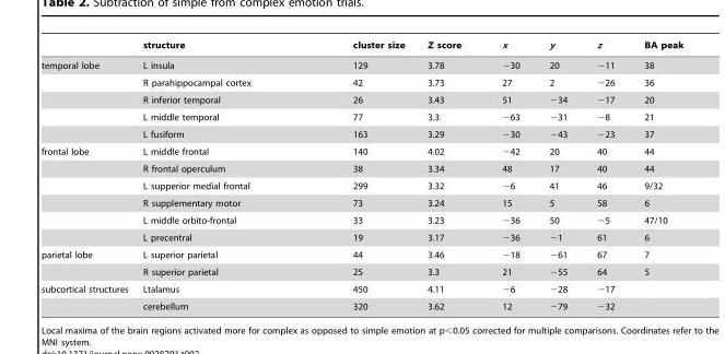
<table><thead><tr><td></td><td>structure</td><td>cluster size</td><td>Z score</td><td>x</td><td>y</td><td>z</td><td>BA peak</td></tr></thead><tbody><tr><td rowspan="5">temporal lobe</td><td>L insula</td><td>129</td><td>3.78</td><td>−30</td><td>20</td><td>−11</td><td>38</td></tr><tr><td>R parahippocampal cortex</td><td>42</td><td>3.73</td><td>27</td><td>2</td><td>−26</td><td>36</td></tr><tr><td>R inferior temporal</td><td>26</td><td>3.43</td><td>51</td><td>−34</td><td>−17</td><td>20</td></tr><tr><td>L middle temporal</td><td>77</td><td>3.3</td><td>−63</td><td>−31</td><td>−8</td><td>21</td></tr><tr><td>L fusiform</td><td>163</td><td>3.29</td><td>−30</td><td>−43</td><td>−23</td><td>37</td></tr><tr><td rowspan="6">frontal lobe</td><td>L middle frontal</td><td>140</td><td>4.02</td><td>−42</td><td>20</td><td>40</td><td>44</td></tr><tr><td>R frontal operculum</td><td>38</td><td>3.34</td><td>48</td><td>17</td><td>40</td><td>44</td></tr><tr><td>L supperior medial frontal</td><td>299</td><td>3.32</td><td>−6</td><td>41</td><td>46</td><td>9/32</td></tr><tr><td>R supplementary motor</td><td>73</td><td>3.24</td><td>15</td><td>5</td><td>58</td><td>6</td></tr><tr><td>L middle orbito-frontal</td><td>33</td><td>3.23</td><td>−36</td><td>50</td><td>−5</td><td>47/10</td></tr><tr><td>L precentral</td><td>19</td><td>3.17</td><td>−36</td><td>−1</td><td>61</td><td>6</td></tr><tr><td rowspan="2">parietal lobe</td><td>L superior parietal</td><td>44</td><td>3.46</td><td>−18</td><td>−61</td><td>67</td><td>7</td></tr><tr><td>R superior parietal</td><td>25</td><td>3.3</td><td>21</td><td>−55</td><td>64</td><td>5</td></tr><tr><td rowspan="2">subcortical structures</td><td>Ltalamus</td><td>450</td><td>4.11</td><td>−6</td><td>−28</td><td>−17</td><td></td></tr><tr><td>cerebellum</td><td>320</td><td>3.62</td><td>12</td><td>−79</td><td>−32</td><td></td></tr></tbody></table>